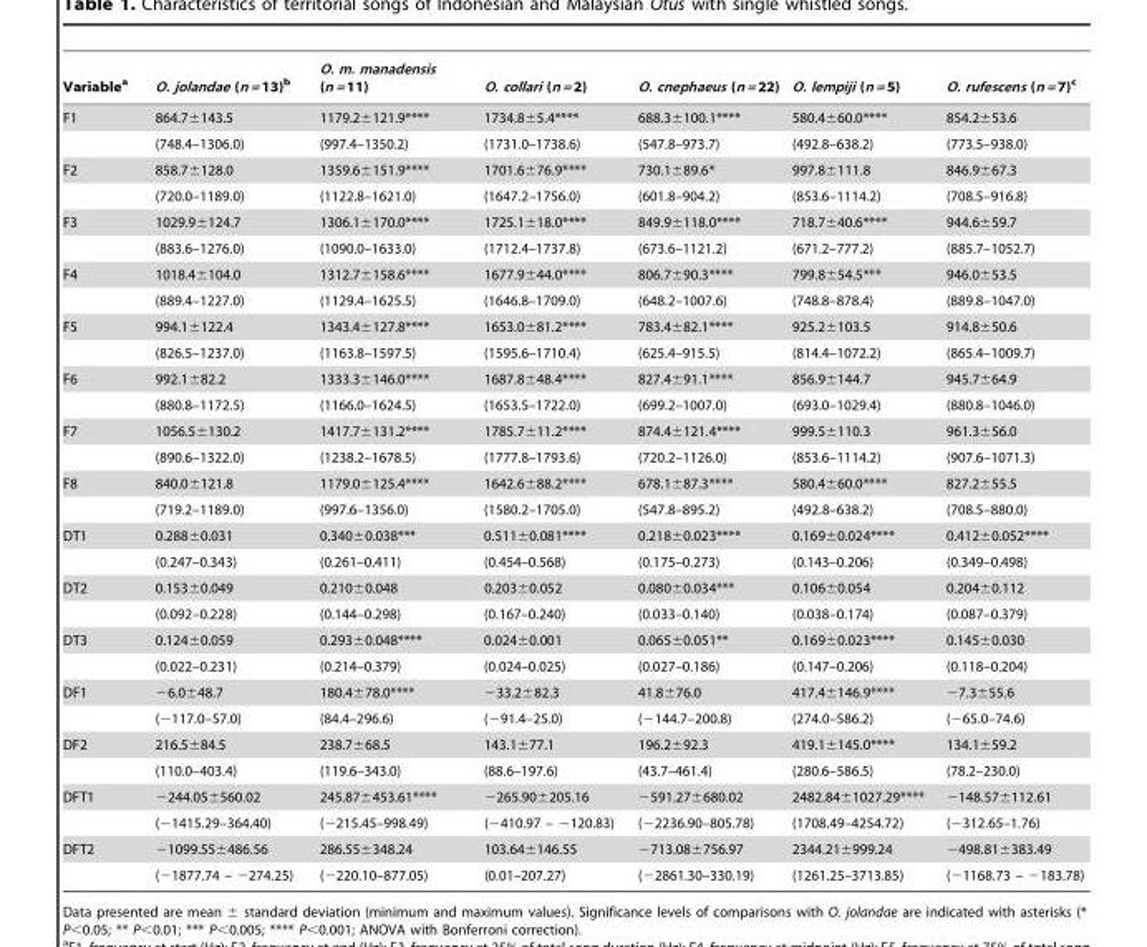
<table><thead><tr><td>Variable<sup>a</sup></td><td>O. jolandae (n = 13)<sup>b</sup></td><td>O. m. manadensis (n = 11)</td><td>O. collari (n = 2)</td><td>O. cnephaeus (n = 22)</td><td>O. lempiji (n = 5)</td><td>O. rufescens (n = 7)<sup>c</sup></td></tr></thead><tbody><tr><td rowspan="2">F1</td><td>864.7±143.5</td><td>1179.2±121.9****</td><td>1734.8±5.4****</td><td>688.3±100.1****</td><td>580.4±60.0****</td><td>854.2±53.6</td></tr><tr><td>(748.4–1306.0)</td><td>(997.4–1350.2)</td><td>(1731.0–1738.6)</td><td>(547.8–973.7)</td><td>(492.8–638.2)</td><td>(773.5–938.0)</td></tr><tr><td rowspan="2">F2</td><td>858.7±128.0</td><td>1359.6±151.9****</td><td>1701.6±76.9****</td><td>730.1±89.6*</td><td>997.8±111.8</td><td>846.9±67.3</td></tr><tr><td>(720.0–1189.0)</td><td>(1122.8–1621.0)</td><td>(1647.2–1756.0)</td><td>(601.8–904.2)</td><td>(853.6–1114.2)</td><td>(708.5–916.8)</td></tr><tr><td rowspan="2">F3</td><td>1029.9±124.7</td><td>1306.1±170.0****</td><td>1725.1±18.0****</td><td>849.9±118.0****</td><td>718.7±40.6****</td><td>944.6±59.7</td></tr><tr><td>(883.6–1276.0)</td><td>(1090.0–1633.0)</td><td>(1712.4–1737.8)</td><td>(673.6–1121.2)</td><td>(671.2–777.2)</td><td>(885.7–1052.7)</td></tr><tr><td rowspan="2">F4</td><td>1018.4±104.0</td><td>1312.7±158.6****</td><td>1677.9±44.0****</td><td>806.7±90.3****</td><td>799.8±54.5***</td><td>946.0±53.5</td></tr><tr><td>(889.4–1227.0)</td><td>(1129.4–1625.5)</td><td>(1646.8–1709.0)</td><td>(648.2–1007.6)</td><td>(748.8–878.4)</td><td>(889.8–1047.0)</td></tr><tr><td rowspan="2">F5</td><td>994.1±122.4</td><td>1343.4±127.8****</td><td>1653.0±81.2****</td><td>783.4±82.1****</td><td>925.2±103.5</td><td>914.8±50.6</td></tr><tr><td>(826.5–1237.0)</td><td>(1163.8–1597.5)</td><td>(1595.6–1710.4)</td><td>(625.4–915.5)</td><td>(814.4–1072.2)</td><td>(865.4–1009.7)</td></tr><tr><td rowspan="2">F6</td><td>992.1±82.2</td><td>1333.3±146.0****</td><td>1687.8±48.4****</td><td>827.4±91.1****</td><td>856.9±144.7</td><td>945.7±64.9</td></tr><tr><td>(880.8–1172.5)</td><td>(1166.0–1624.5)</td><td>(1653.5–1722.0)</td><td>(699.2–1007.0)</td><td>(693.0–1029.4)</td><td>(880.8–1046.0)</td></tr><tr><td rowspan="2">F7</td><td>1056.5±130.2</td><td>1417.7±131.2****</td><td>1785.7±11.2****</td><td>874.4±121.4****</td><td>999.5±110.3</td><td>961.3±56.0</td></tr><tr><td>(890.6–1322.0)</td><td>(1238.2–1678.5)</td><td>(1777.8–1793.6)</td><td>(720.2–1126.0)</td><td>(853.6–1114.2)</td><td>(907.6–1071.3)</td></tr><tr><td rowspan="2">F8</td><td>840.0±121.8</td><td>1179.0±125.4****</td><td>1642.6±88.2****</td><td>678.1±87.3****</td><td>580.4±60.0****</td><td>827.2±55.5</td></tr><tr><td>(719.2–1189.0)</td><td>(997.6–1356.0)</td><td>(1580.2–1705.0)</td><td>(547.8–895.2)</td><td>(492.8–638.2)</td><td>(708.5–880.0)</td></tr><tr><td rowspan="2">DT1</td><td>0.288±0.031</td><td>0.340±0.038***</td><td>0.511±0.081****</td><td>0.218±0.023****</td><td>0.169±0.024****</td><td>0.412±0.052****</td></tr><tr><td>(0.247–0.343)</td><td>(0.261–0.411)</td><td>(0.454–0.568)</td><td>(0.175–0.273)</td><td>(0.143–0.206)</td><td>(0.349–0.498)</td></tr><tr><td rowspan="2">DT2</td><td>0.153±0.049</td><td>0.210±0.048</td><td>0.203±0.052</td><td>0.080±0.034***</td><td>0.106±0.054</td><td>0.204±0.112</td></tr><tr><td>(0.092–0.228)</td><td>(0.144–0.298)</td><td>(0.167–0.240)</td><td>(0.033–0.140)</td><td>(0.038–0.174)</td><td>(0.087–0.379)</td></tr><tr><td rowspan="2">DT3</td><td>0.124±0.059</td><td>0.293±0.048****</td><td>0.024±0.001</td><td>0.065±0.051**</td><td>0.169±0.023****</td><td>0.145±0.030</td></tr><tr><td>(0.022–0.231)</td><td>(0.214–0.379)</td><td>(0.024–0.025)</td><td>(0.027–0.186)</td><td>(0.147–0.206)</td><td>(0.118–0.204)</td></tr><tr><td rowspan="2">DF1</td><td>−6.0±48.7</td><td>180.4±78.0****</td><td>−33.2±82.3</td><td>41.8±76.0</td><td>417.4±146.9****</td><td>−7.3±55.6</td></tr><tr><td>(−117.0–57.0)</td><td>(84.4–296.6)</td><td>(−91.4–25.0)</td><td>(−144.7–200.8)</td><td>(274.0–586.2)</td><td>(−65.0–74.6)</td></tr><tr><td rowspan="2">DF2</td><td>216.5±84.5</td><td>238.7±68.5</td><td>143.1±77.1</td><td>196.2±92.3</td><td>419.1±145.0****</td><td>134.1±59.2</td></tr><tr><td>(110.0–403.4)</td><td>(119.6–343.0)</td><td>(88.6–197.6)</td><td>(43.7–461.4)</td><td>(280.6–586.5)</td><td>(78.2–230.0)</td></tr><tr><td rowspan="2">DFT1</td><td>−244.05±560.02</td><td>245.87±453.61****</td><td>−265.90±205.16</td><td>−591.27±680.02</td><td>2482.84±1027.29****</td><td>−148.57±112.61</td></tr><tr><td>(−1415.29–364.40)</td><td>(−215.45–998.49)</td><td>(−410.97 – −120.83)</td><td>(−2236.90–805.78)</td><td>(1708.49–4254.72)</td><td>(−312.65–1.76)</td></tr><tr><td rowspan="2">DFT2</td><td>−1099.55±486.56</td><td>286.55±348.24</td><td>103.64±146.55</td><td>−713.08±756.97</td><td>2344.21±999.24</td><td>−498.81±383.49</td></tr><tr><td>(−1877.74 – −274.25)</td><td>(−220.10–877.05)</td><td>(0.01–207.27)</td><td>(−2861.30–330.19)</td><td>(1261.25–3713.85)</td><td>(−1168.73 – −183.78)</td></tr></tbody></table>